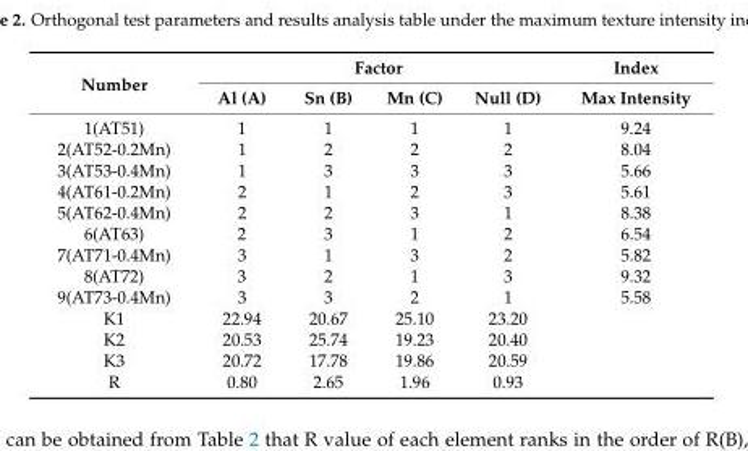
<table><thead><tr><td rowspan="2">Number</td><td colspan="4">Factor</td><td rowspan="2">Index Max Intensity</td></tr><tr><td>Al (A)</td><td>Sn (B)</td><td>Mn (C)</td><td>Null (D)</td></tr></thead><tbody><tr><td>1(AT51)</td><td>1</td><td>1</td><td>1</td><td>1</td><td>9.24</td></tr><tr><td>2(AT52-0.2Mn)</td><td>1</td><td>2</td><td>2</td><td>2</td><td>8.04</td></tr><tr><td>3(AT53-0.4Mn)</td><td>1</td><td>3</td><td>3</td><td>3</td><td>5.66</td></tr><tr><td>4(AT61-0.2Mn)</td><td>2</td><td>1</td><td>2</td><td>3</td><td>5.61</td></tr><tr><td>5(AT62-0.4Mn)</td><td>2</td><td>2</td><td>3</td><td>1</td><td>8.38</td></tr><tr><td>6(AT63)</td><td>2</td><td>3</td><td>1</td><td>2</td><td>6.54</td></tr><tr><td>7(AT71-0.4Mn)</td><td>3</td><td>1</td><td>3</td><td>2</td><td>5.82</td></tr><tr><td>8(AT72)</td><td>3</td><td>2</td><td>1</td><td>3</td><td>9.32</td></tr><tr><td>9(AT73-0.4Mn)</td><td>3</td><td>3</td><td>2</td><td>1</td><td>5.58</td></tr><tr><td>K1</td><td>22.94</td><td>20.67</td><td>25.10</td><td>23.20</td><td></td></tr><tr><td>K2</td><td>20.53</td><td>25.74</td><td>19.23</td><td>20.40</td><td></td></tr><tr><td>K3</td><td>20.72</td><td>17.78</td><td>19.86</td><td>20.59</td><td></td></tr><tr><td>R</td><td>0.80</td><td>2.65</td><td>1.96</td><td>0.93</td><td></td></tr></tbody></table>